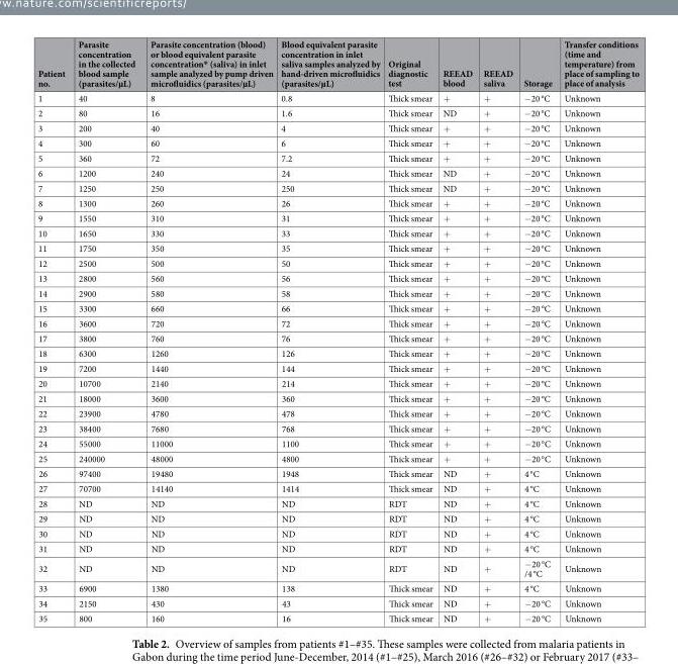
<table><thead><tr><td>Patient no.</td><td>Parasite concentration in the collected blood sample (parasites/µL)</td><td>Parasite concentration (blood) or blood equivalent parasite concentration* (saliva) in inlet sample analyzed by pump driven microfluidics (parasites/µL)</td><td>Blood equivalent parasite concentration in inlet saliva samples analyzed by hand-driven microfluidics (parasites/µL)</td><td>Original diagnostic test</td><td>REEAD blood</td><td>REEAD saliva</td><td>Storage</td><td>Transfer conditions (time and temperature) from place of sampling to place of analysis</td></tr></thead><tbody><tr><td>1</td><td>40</td><td>8</td><td>0.8</td><td>Thick smear</td><td>+</td><td>+</td><td>−20 °C</td><td>Unknown</td></tr><tr><td>2</td><td>80</td><td>16</td><td>1.6</td><td>Thick smear</td><td>ND</td><td>+</td><td>−20 °C</td><td>Unknown</td></tr><tr><td>3</td><td>200</td><td>40</td><td>4</td><td>Thick smear</td><td>+</td><td>+</td><td>−20 °C</td><td>Unknown</td></tr><tr><td>4</td><td>300</td><td>60</td><td>6</td><td>Thick smear</td><td>+</td><td>+</td><td>−20 °C</td><td>Unknown</td></tr><tr><td>5</td><td>360</td><td>72</td><td>7.2</td><td>Thick smear</td><td>+</td><td>+</td><td>−20 °C</td><td>Unknown</td></tr><tr><td>6</td><td>1200</td><td>240</td><td>24</td><td>Thick smear</td><td>ND</td><td>+</td><td>−20 °C</td><td>Unknown</td></tr><tr><td>7</td><td>1250</td><td>250</td><td>250</td><td>Thick smear</td><td>ND</td><td>+</td><td>−20 °C</td><td>Unknown</td></tr><tr><td>8</td><td>1300</td><td>260</td><td>26</td><td>Thick smear</td><td>+</td><td>+</td><td>−20 °C</td><td>Unknown</td></tr><tr><td>9</td><td>1550</td><td>310</td><td>31</td><td>Thick smear</td><td>+</td><td>+</td><td>−20 °C</td><td>Unknown</td></tr><tr><td>10</td><td>1650</td><td>330</td><td>33</td><td>Thick smear</td><td>+</td><td>+</td><td>−20 °C</td><td>Unknown</td></tr><tr><td>11</td><td>1750</td><td>350</td><td>35</td><td>Thick smear</td><td>+</td><td>+</td><td>−20 °C</td><td>Unknown</td></tr><tr><td>12</td><td>2500</td><td>500</td><td>50</td><td>Thick smear</td><td>+</td><td>+</td><td>−20 °C</td><td>Unknown</td></tr><tr><td>13</td><td>2800</td><td>560</td><td>56</td><td>Thick smear</td><td>+</td><td>+</td><td>−20 °C</td><td>Unknown</td></tr><tr><td>14</td><td>2900</td><td>580</td><td>58</td><td>Thick smear</td><td>+</td><td>+</td><td>−20 °C</td><td>Unknown</td></tr><tr><td>15</td><td>3300</td><td>660</td><td>66</td><td>Thick smear</td><td>+</td><td>+</td><td>−20 °C</td><td>Unknown</td></tr><tr><td>16</td><td>3600</td><td>720</td><td>72</td><td>Thick smear</td><td>+</td><td>+</td><td>−20 °C</td><td>Unknown</td></tr><tr><td>17</td><td>3800</td><td>760</td><td>76</td><td>Thick smear</td><td>+</td><td>+</td><td>−20 °C</td><td>Unknown</td></tr><tr><td>18</td><td>6300</td><td>1260</td><td>126</td><td>Thick smear</td><td>+</td><td>+</td><td>−20 °C</td><td>Unknown</td></tr><tr><td>19</td><td>7200</td><td>1440</td><td>144</td><td>Thick smear</td><td>+</td><td>+</td><td>−20 °C</td><td>Unknown</td></tr><tr><td>20</td><td>10700</td><td>2140</td><td>214</td><td>Thick smear</td><td>+</td><td>+</td><td>−20 °C</td><td>Unknown</td></tr><tr><td>21</td><td>18000</td><td>3600</td><td>360</td><td>Thick smear</td><td>+</td><td>+</td><td>−20 °C</td><td>Unknown</td></tr><tr><td>22</td><td>23900</td><td>4780</td><td>478</td><td>Thick smear</td><td>+</td><td>+</td><td>−20 °C</td><td>Unknown</td></tr><tr><td>23</td><td>38400</td><td>7680</td><td>768</td><td>Thick smear</td><td>+</td><td>+</td><td>−20 °C</td><td>Unknown</td></tr><tr><td>24</td><td>55000</td><td>11000</td><td>1100</td><td>Thick smear</td><td>+</td><td>+</td><td>−20 °C</td><td>Unknown</td></tr><tr><td>25</td><td>240000</td><td>48000</td><td>4800</td><td>Thick smear</td><td>+</td><td>+</td><td>−20 °C</td><td>Unknown</td></tr><tr><td>26</td><td>97400</td><td>19480</td><td>1948</td><td>Thick smear</td><td>ND</td><td>+</td><td>4 °C</td><td>Unknown</td></tr><tr><td>27</td><td>70700</td><td>14140</td><td>1414</td><td>Thick smear</td><td>ND</td><td>+</td><td>4 °C</td><td>Unknown</td></tr><tr><td>28</td><td>ND</td><td>ND</td><td>ND</td><td>RDT</td><td>ND</td><td>+</td><td>4 °C</td><td>Unknown</td></tr><tr><td>29</td><td>ND</td><td>ND</td><td>ND</td><td>RDT</td><td>ND</td><td>+</td><td>4 °C</td><td>Unknown</td></tr><tr><td>30</td><td>ND</td><td>ND</td><td>ND</td><td>RDT</td><td>ND</td><td>+</td><td>4 °C</td><td>Unknown</td></tr><tr><td>31</td><td>ND</td><td>ND</td><td>ND</td><td>RDT</td><td>ND</td><td>+</td><td>4 °C</td><td>Unknown</td></tr><tr><td>32</td><td>ND</td><td>ND</td><td>ND</td><td>RDT</td><td>ND</td><td>+</td><td>−20 °C /4 °C</td><td>Unknown</td></tr><tr><td>33</td><td>6900</td><td>1380</td><td>138</td><td>Thick smear</td><td>ND</td><td>+</td><td>4 °C</td><td>Unknown</td></tr><tr><td>34</td><td>2150</td><td>430</td><td>43</td><td>Thick smear</td><td>ND</td><td>+</td><td>−20 °C</td><td>Unknown</td></tr><tr><td>35</td><td>800</td><td>160</td><td>16</td><td>Thick smear</td><td>ND</td><td>+</td><td>−20 °C</td><td>Unknown</td></tr></tbody></table>